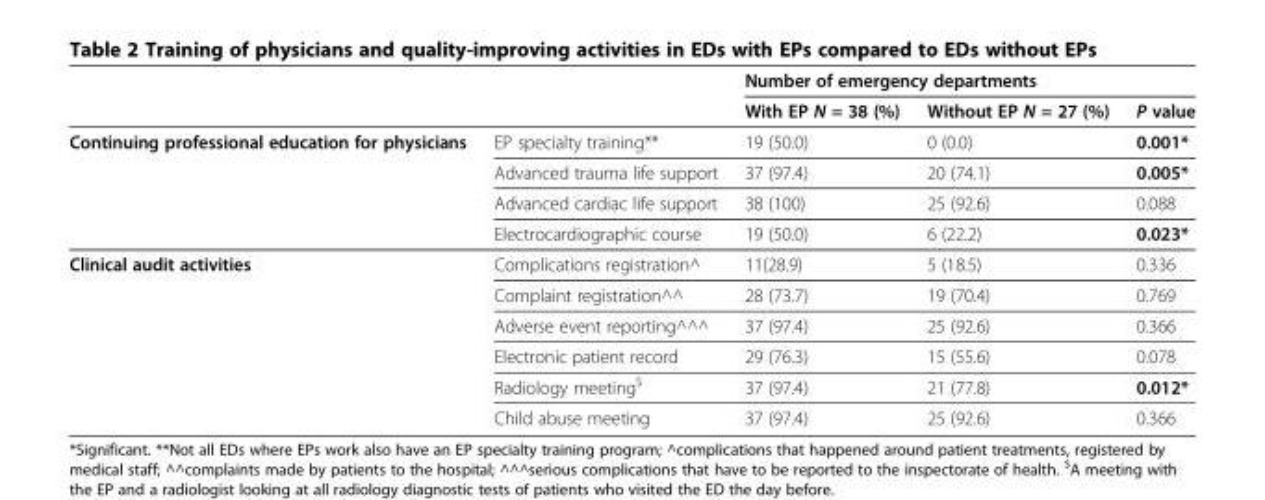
<table><thead><tr><td rowspan="2"></td><td rowspan="2"></td><td colspan="3">Number of emergency departments</td></tr><tr><td>With EP N = 38 (%)</td><td>Without EP N = 27 (%)</td><td>P value</td></tr></thead><tbody><tr><td rowspan="4">Continuing professional education for physicians</td><td>EP specialty training**</td><td>19 (50.0)</td><td>0 (0.0)</td><td>0.001*</td></tr><tr><td>Advanced trauma life support</td><td>37 (97.4)</td><td>20 (74.1)</td><td>0.005*</td></tr><tr><td>Advanced cardiac life support</td><td>38 (100)</td><td>25 (92.6)</td><td>0.088</td></tr><tr><td>Electrocardiographic course</td><td>19 (50.0)</td><td>6 (22.2)</td><td>0.023*</td></tr><tr><td rowspan="6">Clinical audit activities</td><td>Complications registration^</td><td>11(28.9)</td><td>5 (18.5)</td><td>0.336</td></tr><tr><td>Complaint registration^^</td><td>28 (73.7)</td><td>19 (70.4)</td><td>0.769</td></tr><tr><td>Adverse event reporting^^^</td><td>37 (97.4)</td><td>25 (92.6)</td><td>0.366</td></tr><tr><td>Electronic patient record</td><td>29 (76.3)</td><td>15 (55.6)</td><td>0.078</td></tr><tr><td>Radiology meeting<sup>$</sup></td><td>37 (97.4)</td><td>21 (77.8)</td><td>0.012*</td></tr><tr><td>Child abuse meeting</td><td>37 (97.4)</td><td>25 (92.6)</td><td>0.366</td></tr></tbody></table>